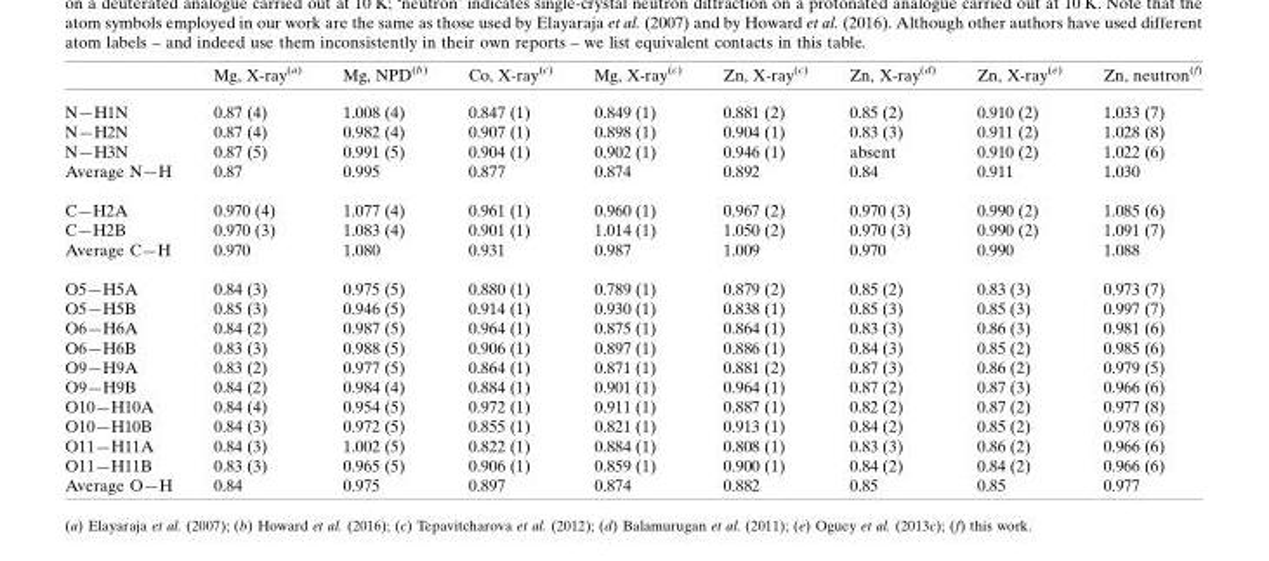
<table><thead><tr><td></td><td>Mg, X-ray<sup>(a)</sup></td><td>Mg, NPD<sup>(b)</sup></td><td>Co, X-ray<sup>(c)</sup></td><td>Mg, X-ray<sup>(c)</sup></td><td>Zn, X-ray<sup>(c)</sup></td><td>Zn, X-ray<sup>(d)</sup></td><td>Zn, X-ray<sup>(e)</sup></td><td>Zn, neutron<sup>(f)</sup></td></tr></thead><tbody><tr><td>N—H1N</td><td>0.87 (4)</td><td>1.008 (4)</td><td>0.847 (1)</td><td>0.849 (1)</td><td>0.881 (2)</td><td>0.85 (2)</td><td>0.910 (2)</td><td>1.033 (7)</td></tr><tr><td>N—H2N</td><td>0.87 (4)</td><td>0.982 (4)</td><td>0.907 (1)</td><td>0.898 (1)</td><td>0.904 (1)</td><td>0.83 (3)</td><td>0.911 (2)</td><td>1.028 (8)</td></tr><tr><td>N—H3N</td><td>0.87 (5)</td><td>0.991 (5)</td><td>0.904 (1)</td><td>0.902 (1)</td><td>0.946 (1)</td><td>absent</td><td>0.910 (2)</td><td>1.022 (6)</td></tr><tr><td>Average N—H</td><td>0.87</td><td>0.995</td><td>0.877</td><td>0.874</td><td>0.892</td><td>0.84</td><td>0.911</td><td>1.030</td></tr><tr><td>C—H2A</td><td>0.970 (4)</td><td>1.077 (4)</td><td>0.961 (1)</td><td>0.960 (1)</td><td>0.967 (2)</td><td>0.970 (3)</td><td>0.990 (2)</td><td>1.085 (6)</td></tr><tr><td>C—H2B</td><td>0.970 (3)</td><td>1.083 (4)</td><td>0.901 (1)</td><td>1.014 (1)</td><td>1.050 (2)</td><td>0.970 (3)</td><td>0.990 (2)</td><td>1.091 (7)</td></tr><tr><td>Average C—H</td><td>0.970</td><td>1.080</td><td>0.931</td><td>0.987</td><td>1.009</td><td>0.970</td><td>0.990</td><td>1.088</td></tr><tr><td>O5—H5A</td><td>0.84 (3)</td><td>0.975 (5)</td><td>0.880 (1)</td><td>0.789 (1)</td><td>0.879 (2)</td><td>0.85 (2)</td><td>0.83 (3)</td><td>0.973 (7)</td></tr><tr><td>O5—H5B</td><td>0.85 (3)</td><td>0.946 (5)</td><td>0.914 (1)</td><td>0.930 (1)</td><td>0.838 (1)</td><td>0.85 (3)</td><td>0.85 (3)</td><td>0.997 (7)</td></tr><tr><td>O6—H6A</td><td>0.84 (2)</td><td>0.987 (5)</td><td>0.964 (1)</td><td>0.875 (1)</td><td>0.864 (1)</td><td>0.83 (3)</td><td>0.86 (3)</td><td>0.981 (6)</td></tr><tr><td>O6—H6B</td><td>0.83 (3)</td><td>0.988 (5)</td><td>0.906 (1)</td><td>0.897 (1)</td><td>0.886 (1)</td><td>0.84 (3)</td><td>0.85 (2)</td><td>0.985 (6)</td></tr><tr><td>O9—H9A</td><td>0.83 (2)</td><td>0.977 (5)</td><td>0.864 (1)</td><td>0.871 (1)</td><td>0.881 (2)</td><td>0.87 (3)</td><td>0.86 (2)</td><td>0.979 (5)</td></tr><tr><td>O9—H9B</td><td>0.84 (2)</td><td>0.984 (4)</td><td>0.884 (1)</td><td>0.901 (1)</td><td>0.964 (1)</td><td>0.87 (2)</td><td>0.87 (3)</td><td>0.966 (6)</td></tr><tr><td>O10—H10A</td><td>0.84 (4)</td><td>0.954 (5)</td><td>0.972 (1)</td><td>0.911 (1)</td><td>0.887 (1)</td><td>0.82 (2)</td><td>0.87 (2)</td><td>0.977 (8)</td></tr><tr><td>O10—H10B</td><td>0.84 (3)</td><td>0.972 (5)</td><td>0.855 (1)</td><td>0.821 (1)</td><td>0.913 (1)</td><td>0.84 (2)</td><td>0.85 (2)</td><td>0.978 (6)</td></tr><tr><td>O11—H11A</td><td>0.84 (3)</td><td>1.002 (5)</td><td>0.822 (1)</td><td>0.884 (1)</td><td>0.808 (1)</td><td>0.83 (3)</td><td>0.86 (2)</td><td>0.966 (6)</td></tr><tr><td>O11—H11B</td><td>0.83 (3)</td><td>0.965 (5)</td><td>0.906 (1)</td><td>0.859 (1)</td><td>0.900 (1)</td><td>0.84 (2)</td><td>0.84 (2)</td><td>0.966 (6)</td></tr><tr><td>Average O—H</td><td>0.84</td><td>0.975</td><td>0.897</td><td>0.874</td><td>0.882</td><td>0.85</td><td>0.85</td><td>0.977</td></tr></tbody></table>